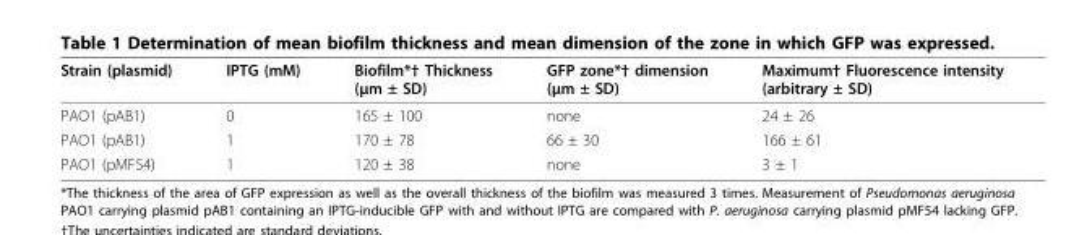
<table><thead><tr><td>Strain (plasmid)</td><td>IPTG (mM)</td><td>Biofilm*† Thickness (μm ± SD)</td><td>GFP zone*† dimension (μm ± SD)</td><td>Maximum† Fluorescence intensity (arbitrary ± SD)</td></tr></thead><tbody><tr><td>PAO1 (pAB1)</td><td>0</td><td>165 ± 100</td><td>none</td><td>24 ± 26</td></tr><tr><td>PAO1 (pAB1)</td><td>1</td><td>170 ± 78</td><td>66 ± 30</td><td>166 ± 61</td></tr><tr><td>PAO1 (pMF54)</td><td>1</td><td>120 ± 38</td><td>none</td><td>3 ± 1</td></tr></tbody></table>